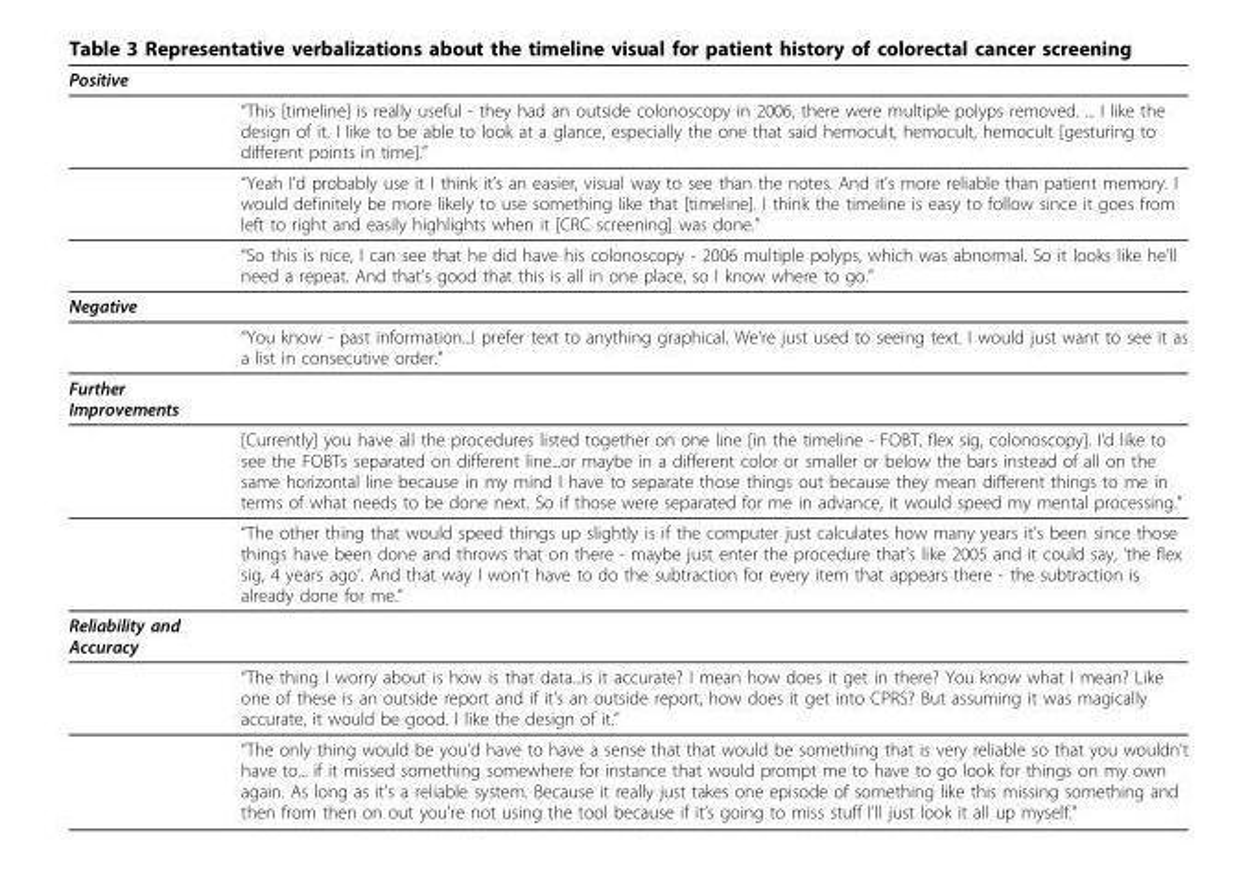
<table><thead><tr><td>Positive</td><td></td></tr></thead><tbody><tr><td></td><td>“This [timeline] is really useful - they had an outside colonoscopy in 2006, there were multiple polyps removed. ... I like the design of it. I like to be able to look at a glance, especially the one that said hemocult, hemocult, hemocult [gesturing to different points in time].”</td></tr><tr><td></td><td>“Yeah I’d probably use it I think it’s an easier, visual way to see than the notes. And it’s more reliable than patient memory. I would definitely be more likely to use something like that [timeline]. I think the timeline is easy to follow since it goes from left to right and easily highlights when it [CRC screening] was done.”</td></tr><tr><td></td><td>“So this is nice, I can see that he did have his colonoscopy - 2006 multiple polyps, which was abnormal. So it looks like he’ll need a repeat. And that’s good that this is all in one place, so I know where to go.”</td></tr><tr><td colspan="2">Negative</td></tr><tr><td></td><td>“You know - past information...I prefer text to anything graphical. We’re just used to seeing text. I would just want to see it as a list in consecutive order.”</td></tr><tr><td colspan="2">Further Improvements</td></tr><tr><td></td><td>[Currently] you have all the procedures listed together on one line [in the timeline - FOBT, flex sig, colonoscopy]. I’d like to see the FOBTs separated on different line...or maybe in a different color or smaller or below the bars instead of all on the same horizontal line because in my mind I have to separate those things out because they mean different things to me in terms of what needs to be done next. So if those were separated for me in advance, it would speed my mental processing.”</td></tr><tr><td></td><td>“The other thing that would speed things up slightly is if the computer just calculates how many years it’s been since those things have been done and throws that on there - maybe just enter the procedure that’s like 2005 and it could say, ‘the flex sig, 4 years ago’. And that way I won’t have to do the subtraction for every item that appears there - the subtraction is already done for me.”</td></tr><tr><td colspan="2">Reliability and Accuracy</td></tr><tr><td></td><td>“The thing I worry about is how is that data...is it accurate? I mean how does it get in there? You know what I mean? Like one of these is an outside report and if it’s an outside report, how does it get into CPRS? But assuming it was magically accurate, it would be good. I like the design of it.”</td></tr><tr><td></td><td>“The only thing would be you’d have to have a sense that that would be something that is very reliable so that you wouldn’t have to... if it missed something somewhere for instance that would prompt me to have to go look for things on my own again. As long as it’s a reliable system. Because it really just takes one episode of something like this missing something and then from then on out you’re not using the tool because if it’s going to miss stuff I’ll just look it all up myself.”</td></tr></tbody></table>